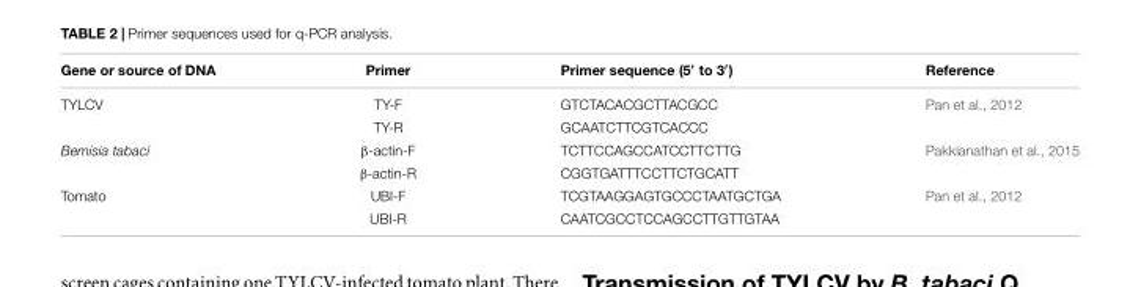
<table><thead><tr><td>Gene or source of DNA</td><td>Primer</td><td>Primer sequence (5′ to 3′)</td><td>Reference</td></tr></thead><tbody><tr><td rowspan="2">TYLCV</td><td>TY-F</td><td>GTCTACACGCTTACGCC</td><td>Pan et al., 2012</td></tr><tr><td>TY-R</td><td>GCAATCTTCGTCACCC</td><td></td></tr><tr><td rowspan="2">Bemisia tabaci</td><td>β-actin-F</td><td>TCTTCCAGCCATCCTTCTTG</td><td>Pakkianathan et al., 2015</td></tr><tr><td>β-actin-R</td><td>CGGTGATTTCCTTCTGCATT</td><td></td></tr><tr><td rowspan="2">Tomato</td><td>UBI-F</td><td>TCGTAAGGAGTGCCCTAATGCTGA</td><td>Pan et al., 2012</td></tr><tr><td>UBI-R</td><td>CAATCGCCTCCAGCCTTGTTGTAA</td><td></td></tr></tbody></table>